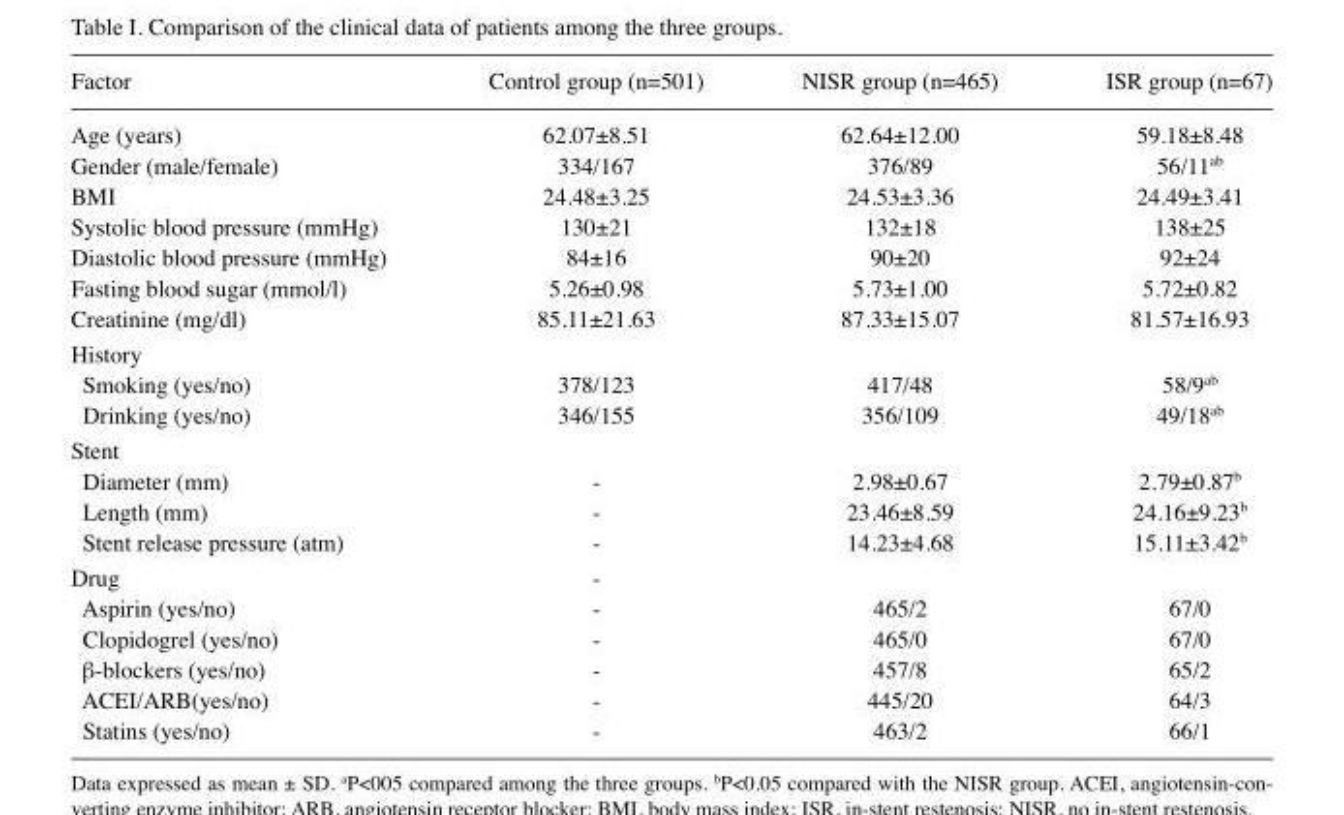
<table><thead><tr><td>Factor</td><td>Control group (n=501)</td><td>NISR group (n=465)</td><td>ISR group (n=67)</td></tr></thead><tbody><tr><td>Age (years)</td><td>62.07±8.51</td><td>62.64±12.00</td><td>59.18±8.48</td></tr><tr><td>Gender (male/female)</td><td>334/167</td><td>376/89</td><td>56/11<sup>ab</sup></td></tr><tr><td>BMI</td><td>24.48±3.25</td><td>24.53±3.36</td><td>24.49±3.41</td></tr><tr><td>Systolic blood pressure (mmHg)</td><td>130±21</td><td>132±18</td><td>138±25</td></tr><tr><td>Diastolic blood pressure (mmHg)</td><td>84±16</td><td>90±20</td><td>92±24</td></tr><tr><td>Fasting blood sugar (mmol/l)</td><td>5.26±0.98</td><td>5.73±1.00</td><td>5.72±0.82</td></tr><tr><td>Creatinine (mg/dl)</td><td>85.11±21.63</td><td>87.33±15.07</td><td>81.57±16.93</td></tr><tr><td colspan="4">History</td></tr><tr><td>Smoking (yes/no)</td><td>378/123</td><td>417/48</td><td>58/9<sup>ab</sup></td></tr><tr><td>Drinking (yes/no)</td><td>346/155</td><td>356/109</td><td>49/18<sup>ab</sup></td></tr><tr><td colspan="4">Stent</td></tr><tr><td>Diameter (mm)</td><td>-</td><td>2.98±0.67</td><td>2.79±0.87<sup>b</sup></td></tr><tr><td>Length (mm)</td><td>-</td><td>23.46±8.59</td><td>24.16±9.23<sup>b</sup></td></tr><tr><td>Stent release pressure (atm)</td><td>-</td><td>14.23±4.68</td><td>15.11±3.42<sup>b</sup></td></tr><tr><td>Drug</td><td>-</td><td></td><td></td></tr><tr><td>Aspirin (yes/no)</td><td>-</td><td>465/2</td><td>67/0</td></tr><tr><td>Clopidogrel (yes/no)</td><td>-</td><td>465/0</td><td>67/0</td></tr><tr><td>β-blockers (yes/no)</td><td>-</td><td>457/8</td><td>65/2</td></tr><tr><td>ACEI/ARB(yes/no)</td><td>-</td><td>445/20</td><td>64/3</td></tr><tr><td>Statins (yes/no)</td><td>-</td><td>463/2</td><td>66/1</td></tr></tbody></table>